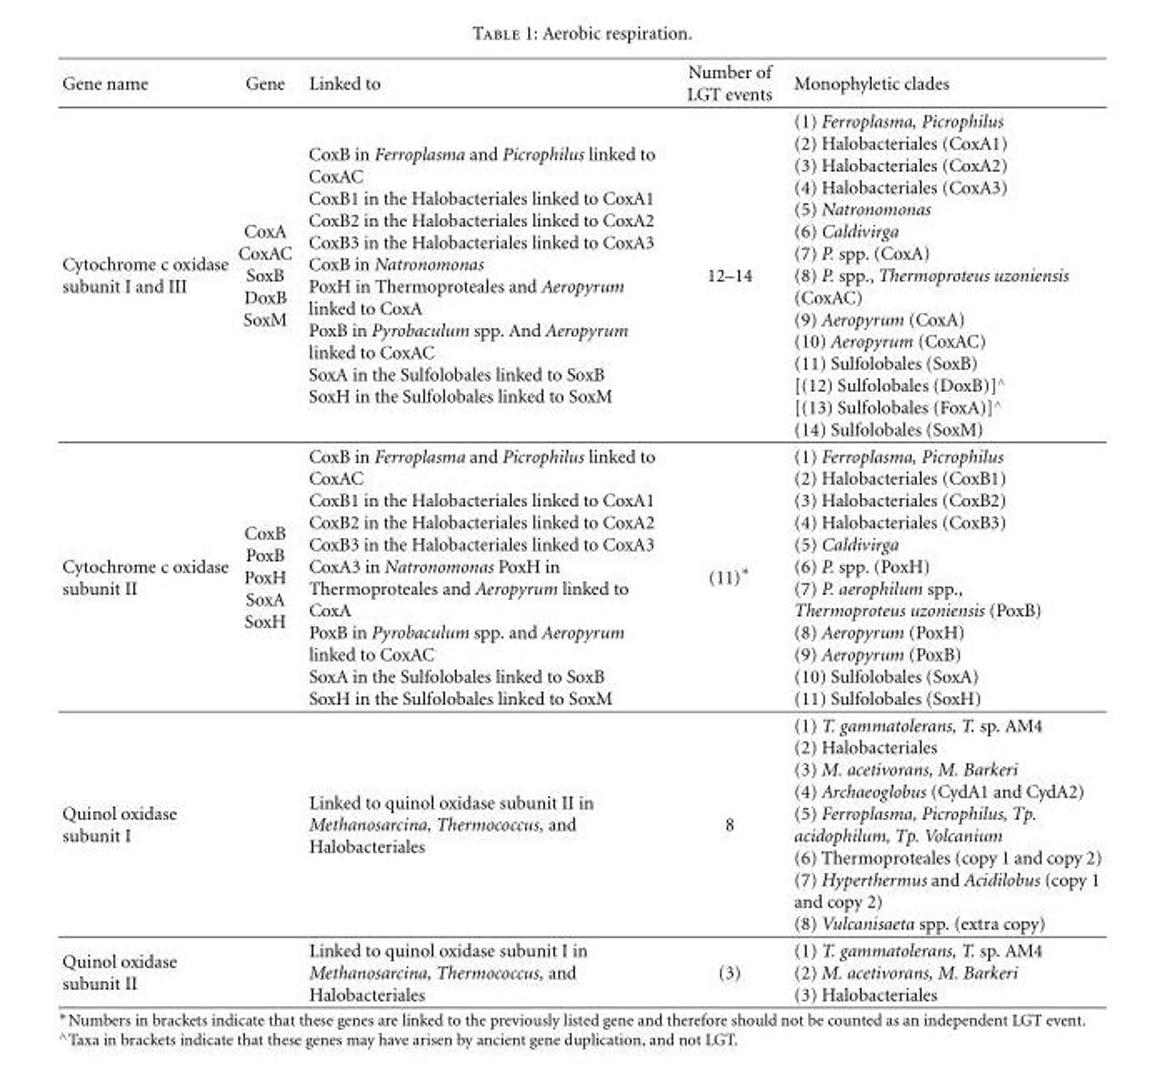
<table><thead><tr><td>Gene name</td><td>Gene</td><td>Linked to</td><td>Number of LGT events</td><td>Monophyletic clades</td></tr></thead><tbody><tr><td>Cytochrome c oxidase subunit I and III</td><td>CoxA CoxAC SoxB DoxB SoxM</td><td>CoxB in Ferroplasma and Picrophilus linked to CoxAC CoxB1 in the Halobacteriales linked to CoxA1 CoxB2 in the Halobacteriales linked to CoxA2 CoxB3 in the Halobacteriales linked to CoxA3 CoxB in Natronomonas PoxH in Thermoproteales and Aeropyrum linked to CoxA PoxB in Pyrobaculum spp. And Aeropyrum linked to CoxAC SoxA in the Sulfolobales linked to SoxB SoxH in the Sulfolobales linked to SoxM</td><td>12–14</td><td>(1) Ferroplasma, Picrophilus (2) Halobacteriales (CoxA1) (3) Halobacteriales (CoxA2) (4) Halobacteriales (CoxA3) (5) Natronomonas (6) Caldivirga (7) P. spp. (CoxA) (8) P. spp., Thermoproteus uzoniensis (CoxAC) (9) Aeropyrum (CoxA) (10) Aeropyrum (CoxAC) (11) Sulfolobales (SoxB) [(12) Sulfolobales (DoxB)]<sup>∧</sup> [(13) Sulfolobales (FoxA)]<sup>∧</sup> (14) Sulfolobales (SoxM)</td></tr><tr><td>Cytochrome c oxidase subunit II</td><td>CoxB PoxB PoxH SoxA SoxH</td><td>CoxB in Ferroplasma and Picrophilus linked to CoxAC CoxB1 in the Halobacteriales linked to CoxA1 CoxB2 in the Halobacteriales linked to CoxA2 CoxB3 in the Halobacteriales linked to CoxA3 CoxA3 in Natronomonas PoxH in Thermoproteales and Aeropyrum linked to CoxA PoxB in Pyrobaculum spp. and Aeropyrum linked to CoxAC SoxA in the Sulfolobales linked to SoxB SoxH in the Sulfolobales linked to SoxM</td><td>(11)∗</td><td>(1) Ferroplasma, Picrophilus (2) Halobacteriales (CoxB1) (3) Halobacteriales (CoxB2) (4) Halobacteriales (CoxB3) (5) Caldivirga (6) P. spp. (PoxH) (7) P. aerophilum spp., Thermoproteus uzoniensis (PoxB) (8) Aeropyrum (PoxH) (9) Aeropyrum (PoxB) (10) Sulfolobales (SoxA) (11) Sulfolobales (SoxH)</td></tr><tr><td>Quinol oxidase subunit I</td><td></td><td>Linked to quinol oxidase subunit II in Methanosarcina, Thermococcus, and Halobacteriales</td><td>8</td><td>(1) T. gammatolerans, T. sp. AM4 (2) Halobacteriales (3) M. acetivorans, M. Barkeri (4) Archaeoglobus (CydA1 and CydA2) (5) Ferroplasma, Picrophilus, Tp. acidophilum, Tp. Volcanium (6) Thermoproteales (copy 1 and copy 2) (7) Hyperthermus and Acidilobus (copy 1 and copy 2) (8) Vulcanisaeta spp. (extra copy)</td></tr><tr><td>Quinol oxidase subunit II</td><td></td><td>Linked to quinol oxidase subunit I in Methanosarcina, Thermococcus, and Halobacteriales</td><td>(3)</td><td>(1) T. gammatolerans, T. sp. AM4 (2) M. acetivorans, M. Barkeri (3) Halobacteriales</td></tr></tbody></table>